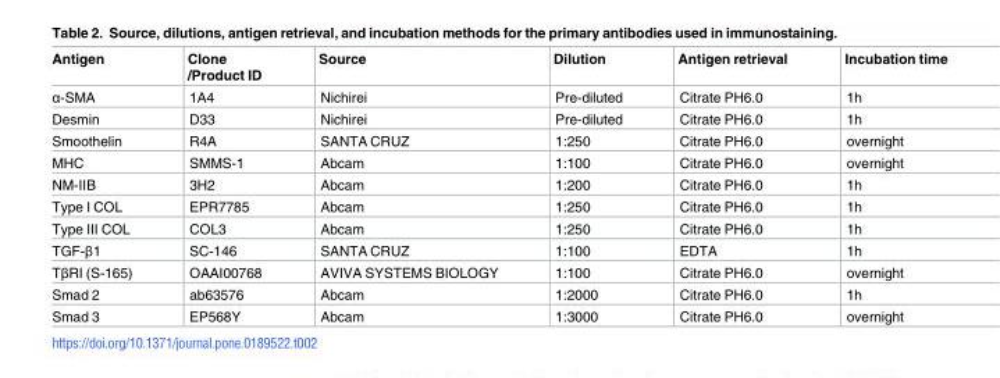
<table><thead><tr><td>Antigen</td><td>Clone /Product ID</td><td>Source</td><td>Dilution</td><td>Antigen retrieval</td><td>Incubation time</td></tr></thead><tbody><tr><td>α-SMA</td><td>1A4</td><td>Nichirei</td><td>Pre-diluted</td><td>Citrate PH6.0</td><td>1h</td></tr><tr><td>Desmin</td><td>D33</td><td>Nichirei</td><td>Pre-diluted</td><td>Citrate PH6.0</td><td>1h</td></tr><tr><td>Smoothelin</td><td>R4A</td><td>SANTA CRUZ</td><td>1:250</td><td>Citrate PH6.0</td><td>overnight</td></tr><tr><td>MHC</td><td>SMMS-1</td><td>Abcam</td><td>1:100</td><td>Citrate PH6.0</td><td>overnight</td></tr><tr><td>NM-IIB</td><td>3H2</td><td>Abcam</td><td>1:200</td><td>Citrate PH6.0</td><td>1h</td></tr><tr><td>Type I COL</td><td>EPR7785</td><td>Abcam</td><td>1:250</td><td>Citrate PH6.0</td><td>1h</td></tr><tr><td>Type III COL</td><td>COL3</td><td>Abcam</td><td>1:250</td><td>Citrate PH6.0</td><td>1h</td></tr><tr><td>TGF-β1</td><td>SC-146</td><td>SANTA CRUZ</td><td>1:100</td><td>EDTA</td><td>1h</td></tr><tr><td>TβRI (S-165)</td><td>OAAI00768</td><td>AVIVA SYSTEMS BIOLOGY</td><td>1:100</td><td>Citrate PH6.0</td><td>overnight</td></tr><tr><td>Smad 2</td><td>ab63576</td><td>Abcam</td><td>1:2000</td><td>Citrate PH6.0</td><td>1h</td></tr><tr><td>Smad 3</td><td>EP568Y</td><td>Abcam</td><td>1:3000</td><td>Citrate PH6.0</td><td>overnight</td></tr></tbody></table>